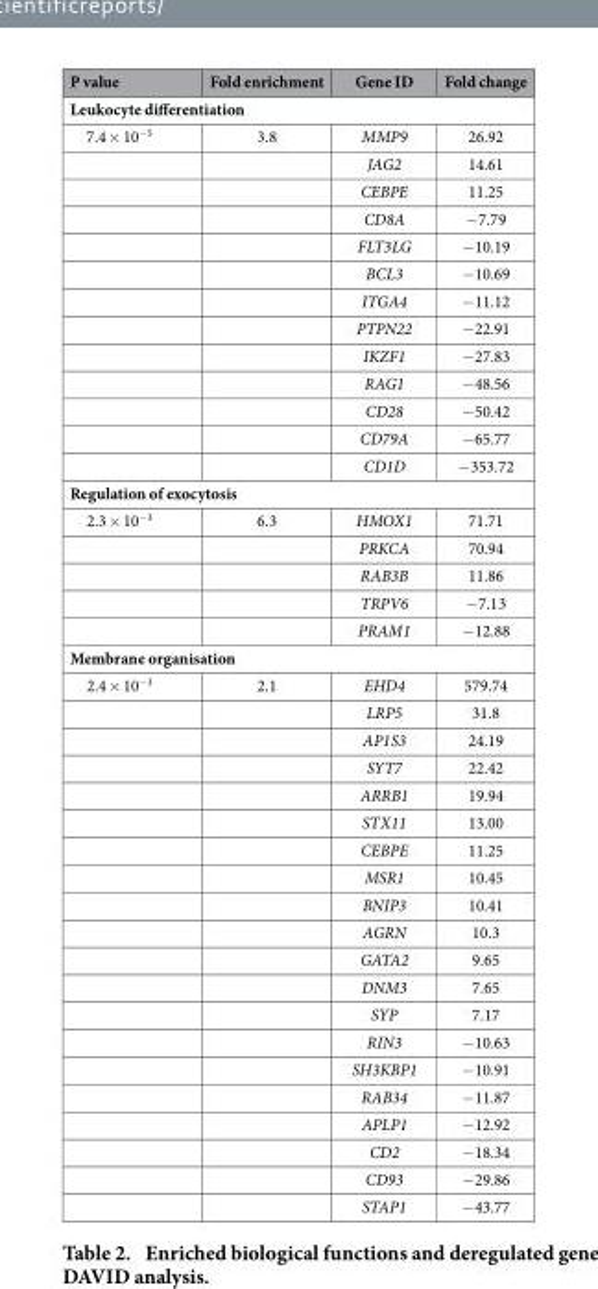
<table><thead><tr><td>P value</td><td>Fold enrichment</td><td>Gene ID</td><td>Fold change</td></tr></thead><tbody><tr><td colspan="4">Leukocyte differentiation</td></tr><tr><td rowspan="13">7.4 × 10<sup>−5</sup></td><td>3.8</td><td>MMP9</td><td>26.92</td></tr><tr><td></td><td>JAG2</td><td>14.61</td></tr><tr><td></td><td>CEBPE</td><td>11.25</td></tr><tr><td></td><td>CD8A</td><td>− 7.79</td></tr><tr><td></td><td>FLT3LG</td><td>− 10.19</td></tr><tr><td></td><td>BCL3</td><td>− 10.69</td></tr><tr><td></td><td>ITGA4</td><td>− 11.12</td></tr><tr><td></td><td>PTPN22</td><td>− 22.91</td></tr><tr><td></td><td>IKZF1</td><td>− 27.83</td></tr><tr><td></td><td>RAG1</td><td>− 48.56</td></tr><tr><td></td><td>CD28</td><td>− 50.42</td></tr><tr><td></td><td>CD79A</td><td>− 65.77</td></tr><tr><td></td><td>CD1D</td><td>− 353.72</td></tr><tr><td colspan="4">Regulation of exocytosis</td></tr><tr><td rowspan="5">2.3 × 10<sup>−3</sup></td><td>6.3</td><td>HMOX1</td><td>71.71</td></tr><tr><td></td><td>PRKCA</td><td>70.94</td></tr><tr><td></td><td>RAB3B</td><td>11.86</td></tr><tr><td></td><td>TRPV6</td><td>− 7.13</td></tr><tr><td></td><td>PRAM1</td><td>− 12.88</td></tr><tr><td colspan="4">Membrane organisation</td></tr><tr><td rowspan="20">2.4 × 10<sup>−3</sup></td><td>2.1</td><td>EHD4</td><td>579.74</td></tr><tr><td></td><td>LRP5</td><td>31.8</td></tr><tr><td></td><td>AP1S3</td><td>24.19</td></tr><tr><td></td><td>SYT7</td><td>22.42</td></tr><tr><td></td><td>ARRB1</td><td>19.94</td></tr><tr><td></td><td>STX11</td><td>13.00</td></tr><tr><td></td><td>CEBPE</td><td>11.25</td></tr><tr><td></td><td>MSR1</td><td>10.45</td></tr><tr><td></td><td>BNIP3</td><td>10.41</td></tr><tr><td></td><td>AGRN</td><td>10.3</td></tr><tr><td></td><td>GATA2</td><td>9.65</td></tr><tr><td></td><td>DNM3</td><td>7.65</td></tr><tr><td></td><td>SYP</td><td>7.17</td></tr><tr><td></td><td>RIN3</td><td>− 10.63</td></tr><tr><td></td><td>SH3KBP1</td><td>− 10.91</td></tr><tr><td></td><td>RAB34</td><td>− 11.87</td></tr><tr><td></td><td>APLP1</td><td>− 12.92</td></tr><tr><td></td><td>CD2</td><td>− 18.34</td></tr><tr><td></td><td>CD93</td><td>− 29.86</td></tr><tr><td></td><td>STAP1</td><td>− 43.77</td></tr></tbody></table>